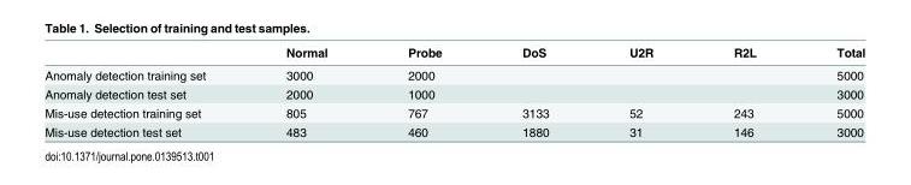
<table><thead><tr><td></td><td>Normal</td><td>Probe</td><td>DoS</td><td>U2R</td><td>R2L</td><td>Total</td></tr></thead><tbody><tr><td>Anomaly detection training set</td><td>3000</td><td colspan="4">2000</td><td>5000</td></tr><tr><td>Anomaly detection test set</td><td>2000</td><td colspan="4">1000</td><td>3000</td></tr><tr><td>Mis-use detection training set</td><td>805</td><td>767</td><td>3133</td><td>52</td><td>243</td><td>5000</td></tr><tr><td>Mis-use detection test set</td><td>483</td><td>460</td><td>1880</td><td>31</td><td>146</td><td>3000</td></tr></tbody></table>